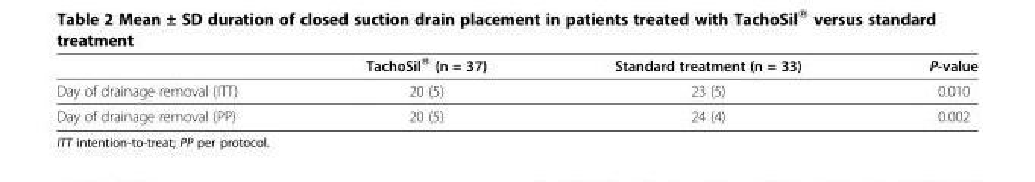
<table><thead><tr><td></td><td>TachoSil<sup>®</sup> (n = 37)</td><td>Standard treatment (n = 33)</td><td>P-value</td></tr></thead><tbody><tr><td>Day of drainage removal (ITT)</td><td>20 (5)</td><td>23 (5)</td><td>0.010</td></tr><tr><td>Day of drainage removal (PP)</td><td>20 (5)</td><td>24 (4)</td><td>0.002</td></tr></tbody></table>